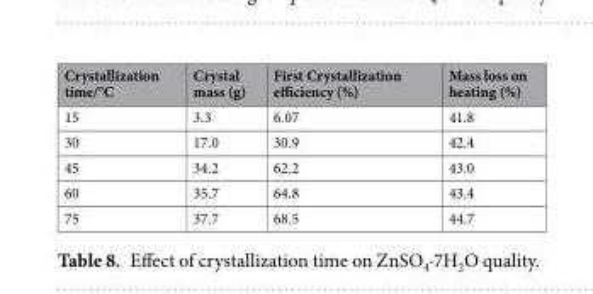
<table><thead><tr><td>Crystallization time/°C</td><td>Crystal mass (g)</td><td>First Crystallization efficiency (%)</td><td>Mass loss on heating (%)</td></tr></thead><tbody><tr><td>15</td><td>3.3</td><td>6.07</td><td>41.8</td></tr><tr><td>30</td><td>17.0</td><td>30.9</td><td>42.4</td></tr><tr><td>45</td><td>34.2</td><td>62.2</td><td>43.0</td></tr><tr><td>60</td><td>35.7</td><td>64.8</td><td>43.4</td></tr><tr><td>75</td><td>37.7</td><td>68.5</td><td>44.7</td></tr></tbody></table>